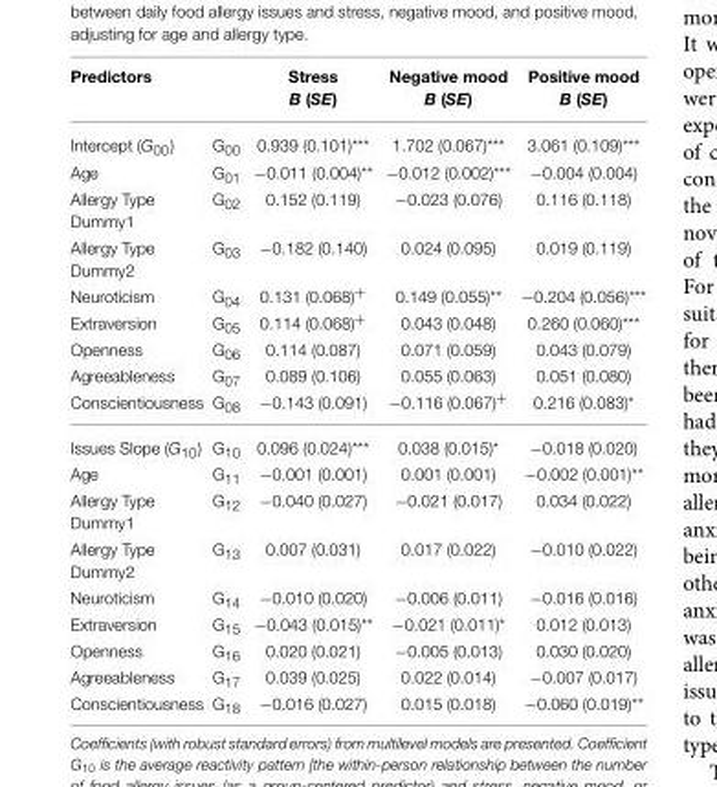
<table><thead><tr><td>Predictors</td><td></td><td>Stress B (SE)</td><td>Negative mood B (SE)</td><td>Positive mood B (SE)</td></tr></thead><tbody><tr><td>Intercept (G<sub>00</sub>)</td><td>G<sub>00</sub></td><td>0.939 (0.101)***</td><td>1.702 (0.067)***</td><td>3.061 (0.109)***</td></tr><tr><td>Age</td><td>G<sub>01</sub></td><td>−0.011 (0.004)**</td><td>−0.012 (0.002)***</td><td>−0.004 (0.004)</td></tr><tr><td>Allergy Type Dummy1</td><td>G<sub>02</sub></td><td>0.152 (0.119)</td><td>−0.023 (0.076)</td><td>0.116 (0.118)</td></tr><tr><td>Allergy Type Dummy2</td><td>G<sub>03</sub></td><td>−0.182 (0.140)</td><td>0.024 (0.095)</td><td>0.019 (0.119)</td></tr><tr><td>Neuroticism</td><td>G<sub>04</sub></td><td>0.131 (0.068)<sup>+</sup></td><td>0.149 (0.055)**</td><td>−0.204 (0.056)***</td></tr><tr><td>Extraversion</td><td>G<sub>05</sub></td><td>0.114 (0.068)<sup>+</sup></td><td>0.043 (0.048)</td><td>0.260 (0.060)***</td></tr><tr><td>Openness</td><td>G<sub>06</sub></td><td>0.114 (0.087)</td><td>0.071 (0.059)</td><td>0.043 (0.079)</td></tr><tr><td>Agreeableness</td><td>G<sub>07</sub></td><td>0.089 (0.106)</td><td>0.055 (0.063)</td><td>0.051 (0.080)</td></tr><tr><td>Conscientiousness</td><td>G<sub>08</sub></td><td>−0.143 (0.091)</td><td>−0.116 (0.067)<sup>+</sup></td><td>0.216 (0.083)*</td></tr><tr><td>Issues Slope (G<sub>10</sub>)</td><td>G<sub>10</sub></td><td>0.096 (0.024)***</td><td>0.038 (0.015)*</td><td>−0.018 (0.020)</td></tr><tr><td>Age</td><td>G<sub>11</sub></td><td>−0.001 (0.001)</td><td>0.001 (0.001)</td><td>−0.002 (0.001)**</td></tr><tr><td>Allergy Type Dummy1</td><td>G<sub>12</sub></td><td>−0.040 (0.027)</td><td>−0.021 (0.017)</td><td>0.034 (0.022)</td></tr><tr><td>Allergy Type Dummy2</td><td>G<sub>13</sub></td><td>0.007 (0.031)</td><td>0.017 (0.022)</td><td>−0.010 (0.022)</td></tr><tr><td>Neuroticism</td><td>G<sub>14</sub></td><td>−0.010 (0.020)</td><td>−0.006 (0.011)</td><td>−0.016 (0.016)</td></tr><tr><td>Extraversion</td><td>G<sub>15</sub></td><td>−0.043 (0.015)**</td><td>−0.021 (0.011)*</td><td>0.012 (0.013)</td></tr><tr><td>Openness</td><td>G<sub>16</sub></td><td>0.020 (0.021)</td><td>−0.005 (0.013)</td><td>0.030 (0.020)</td></tr><tr><td>Agreeableness</td><td>G<sub>17</sub></td><td>0.039 (0.025)</td><td>0.022 (0.014)</td><td>−0.007 (0.017)</td></tr><tr><td>Conscientiousness</td><td>G<sub>18</sub></td><td>−0.016 (0.027)</td><td>0.015 (0.018)</td><td>−0.060 (0.019)**</td></tr></tbody></table>